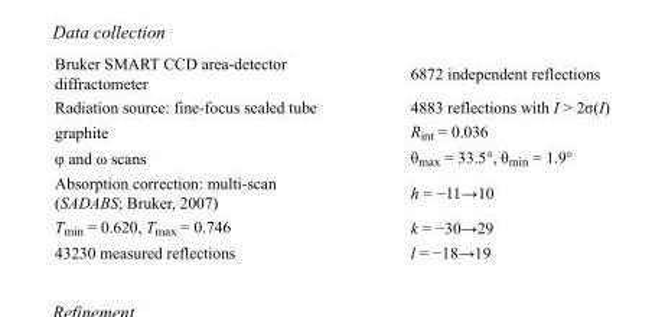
<table><tbody><tr><td>Bruker SMART CCD area-detector diffractometer</td><td>6872 independent reflections</td></tr><tr><td>Radiation source: fine-focus sealed tube</td><td>4883 reflections with I &gt; 2σ(I)</td></tr><tr><td>graphite</td><td>R<sub>int</sub> = 0.036</td></tr><tr><td>φ and ω scans</td><td>θ<sub>max</sub> = 33.5°, θ<sub>min</sub> = 1.9°</td></tr><tr><td>Absorption correction: multi-scan (SADABS; Bruker, 2007)</td><td>h = −11→10</td></tr><tr><td>T<sub>min</sub> = 0.620, T<sub>max</sub> = 0.746</td><td>k = −30→29</td></tr><tr><td>43230 measured reflections</td><td>l = −18→19</td></tr></tbody></table>